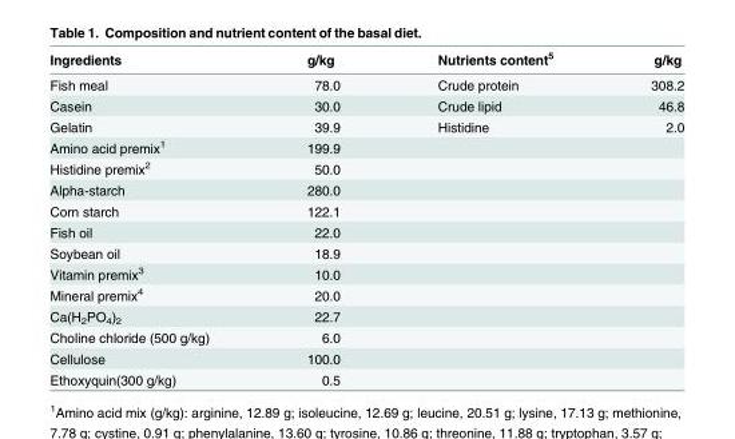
<table><thead><tr><td>Ingredients</td><td>g/kg</td><td>Nutrients content<sup>5</sup></td><td>g/kg</td></tr></thead><tbody><tr><td>Fish meal</td><td>78.0</td><td>Crude protein</td><td>308.2</td></tr><tr><td>Casein</td><td>30.0</td><td>Crude lipid</td><td>46.8</td></tr><tr><td>Gelatin</td><td>39.9</td><td>Histidine</td><td>2.0</td></tr><tr><td>Amino acid premix<sup>1</sup></td><td>199.9</td><td></td><td></td></tr><tr><td>Histidine premix<sup>2</sup></td><td>50.0</td><td></td><td></td></tr><tr><td>Alpha-starch</td><td>280.0</td><td></td><td></td></tr><tr><td>Corn starch</td><td>122.1</td><td></td><td></td></tr><tr><td>Fish oil</td><td>22.0</td><td></td><td></td></tr><tr><td>Soybean oil</td><td>18.9</td><td></td><td></td></tr><tr><td>Vitamin premix<sup>3</sup></td><td>10.0</td><td></td><td></td></tr><tr><td>Mineral premix<sup>4</sup></td><td>20.0</td><td></td><td></td></tr><tr><td>Ca(H<sub>2</sub>PO<sub>4</sub>)<sub>2</sub></td><td>22.7</td><td></td><td></td></tr><tr><td>Choline chloride (500 g/kg)</td><td>6.0</td><td></td><td></td></tr><tr><td>Cellulose</td><td>100.0</td><td></td><td></td></tr><tr><td>Ethoxyquin(300 g/kg)</td><td>0.5</td><td></td><td></td></tr></tbody></table>